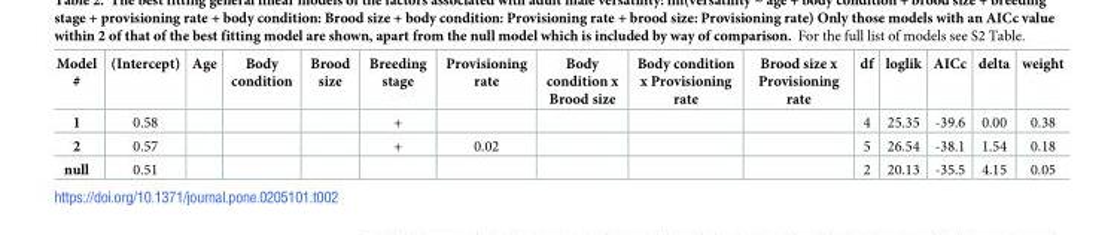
<table><thead><tr><td>Model #</td><td>(Intercept)</td><td>Age</td><td>Body condition</td><td>Brood size</td><td>Breeding stage</td><td>Provisioning rate</td><td>Body condition x Brood size</td><td>Body condition x Provisioning rate</td><td>Brood size x Provisioning rate</td><td>df</td><td>loglik</td><td>AICc</td><td>delta</td><td>weight</td></tr></thead><tbody><tr><td>1</td><td>0.58</td><td></td><td></td><td></td><td>+</td><td></td><td></td><td></td><td></td><td>4</td><td>25.35</td><td>-39.6</td><td>0.00</td><td>0.38</td></tr><tr><td>2</td><td>0.57</td><td></td><td></td><td></td><td>+</td><td>0.02</td><td></td><td></td><td></td><td>5</td><td>26.54</td><td>-38.1</td><td>1.54</td><td>0.18</td></tr><tr><td>null</td><td>0.51</td><td></td><td></td><td></td><td></td><td></td><td></td><td></td><td></td><td>2</td><td>20.13</td><td>-35.5</td><td>4.15</td><td>0.05</td></tr></tbody></table>